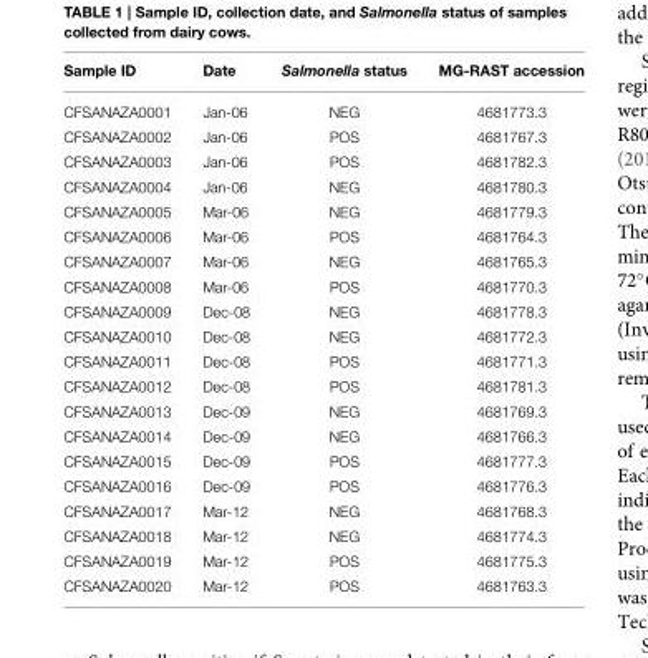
<table><thead><tr><td>Sample ID</td><td>Date</td><td>Salmonella status</td><td>MG-RAST accession</td></tr></thead><tbody><tr><td>CFSANAZA0001</td><td>Jan-06</td><td>NEG</td><td>4681773.3</td></tr><tr><td>CFSANAZA0002</td><td>Jan-06</td><td>POS</td><td>4681767.3</td></tr><tr><td>CFSANAZA0003</td><td>Jan-06</td><td>POS</td><td>4681782.3</td></tr><tr><td>CFSANAZA0004</td><td>Jan-06</td><td>NEG</td><td>4681780.3</td></tr><tr><td>CFSANAZA0005</td><td>Mar-06</td><td>NEG</td><td>4681779.3</td></tr><tr><td>CFSANAZA0006</td><td>Mar-06</td><td>POS</td><td>4681764.3</td></tr><tr><td>CFSANAZA0007</td><td>Mar-06</td><td>NEG</td><td>4681765.3</td></tr><tr><td>CFSANAZA0008</td><td>Mar-06</td><td>POS</td><td>4681770.3</td></tr><tr><td>CFSANAZA0009</td><td>Dec-08</td><td>NEG</td><td>4681778.3</td></tr><tr><td>CFSANAZA0010</td><td>Dec-08</td><td>NEG</td><td>4681772.3</td></tr><tr><td>CFSANAZA0011</td><td>Dec-08</td><td>POS</td><td>4681771.3</td></tr><tr><td>CFSANAZA0012</td><td>Dec-08</td><td>POS</td><td>4681781.3</td></tr><tr><td>CFSANAZA0013</td><td>Dec-09</td><td>NEG</td><td>4681769.3</td></tr><tr><td>CFSANAZA0014</td><td>Dec-09</td><td>NEG</td><td>4681766.3</td></tr><tr><td>CFSANAZA0015</td><td>Dec-09</td><td>POS</td><td>4681777.3</td></tr><tr><td>CFSANAZA0016</td><td>Dec-09</td><td>POS</td><td>4681776.3</td></tr><tr><td>CFSANAZA0017</td><td>Mar-12</td><td>NEG</td><td>4681768.3</td></tr><tr><td>CFSANAZA0018</td><td>Mar-12</td><td>NEG</td><td>4681774.3</td></tr><tr><td>CFSANAZA0019</td><td>Mar-12</td><td>POS</td><td>4681775.3</td></tr><tr><td>CFSANAZA0020</td><td>Mar-12</td><td>POS</td><td>4681763.3</td></tr></tbody></table>